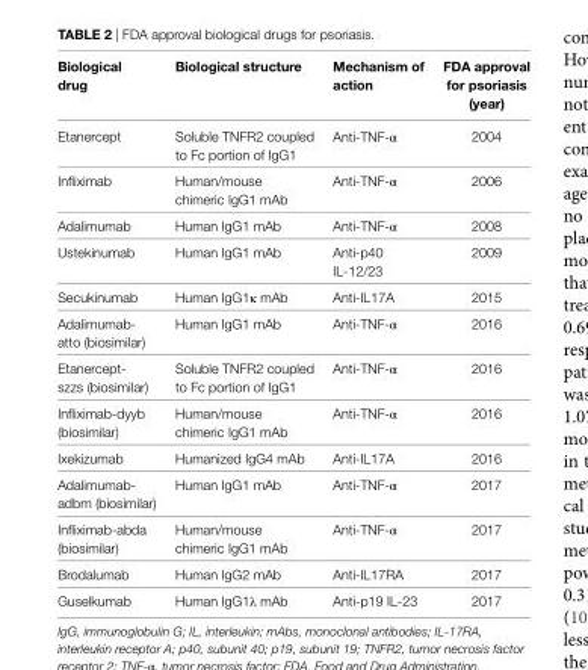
<table><thead><tr><td>Biological drug</td><td>Biological structure</td><td>Mechanism of action</td><td>FDA approval for psoriasis (year)</td></tr></thead><tbody><tr><td>Etanercept</td><td>Soluble TNFR2 coupled to Fc portion of IgG1</td><td>Anti-TNF-α</td><td>2004</td></tr><tr><td>Infliximab</td><td>Human/mouse chimeric IgG1 mAb</td><td>Anti-TNF-α</td><td>2006</td></tr><tr><td>Adalimumab</td><td>Human IgG1 mAb</td><td>Anti-TNF-α</td><td>2008</td></tr><tr><td>Ustekinumab</td><td>Human IgG1 mAb</td><td>Anti-p40 IL-12/23</td><td>2009</td></tr><tr><td>Secukinumab</td><td>Human IgG1κ mAb</td><td>Anti-IL17A</td><td>2015</td></tr><tr><td>Adalimumab- atto (biosimilar)</td><td>Human IgG1 mAb</td><td>Anti-TNF-α</td><td>2016</td></tr><tr><td>Etanercept- szzs (biosimilar)</td><td>Soluble TNFR2 coupled to Fc portion of IgG1</td><td>Anti-TNF-α</td><td>2016</td></tr><tr><td>Infliximab-dyyb (biosimilar)</td><td>Human/mouse chimeric IgG1 mAb</td><td>Anti-TNF-α</td><td>2016</td></tr><tr><td>Ixekizumab</td><td>Humanized IgG4 mAb</td><td>Anti-IL17A</td><td>2016</td></tr><tr><td>Adalimumab- adbm (biosimilar)</td><td>Human IgG1 mAb</td><td>Anti-TNF-α</td><td>2017</td></tr><tr><td>Infliximab-abda (biosimilar)</td><td>Human/mouse chimeric IgG1 mAb</td><td>Anti-TNF-α</td><td>2017</td></tr><tr><td>Brodalumab</td><td>Human IgG2 mAb</td><td>Anti-IL17RA</td><td>2017</td></tr><tr><td>Guselkumab</td><td>Human IgG1λ mAb</td><td>Anti-p19 IL-23</td><td>2017</td></tr></tbody></table>